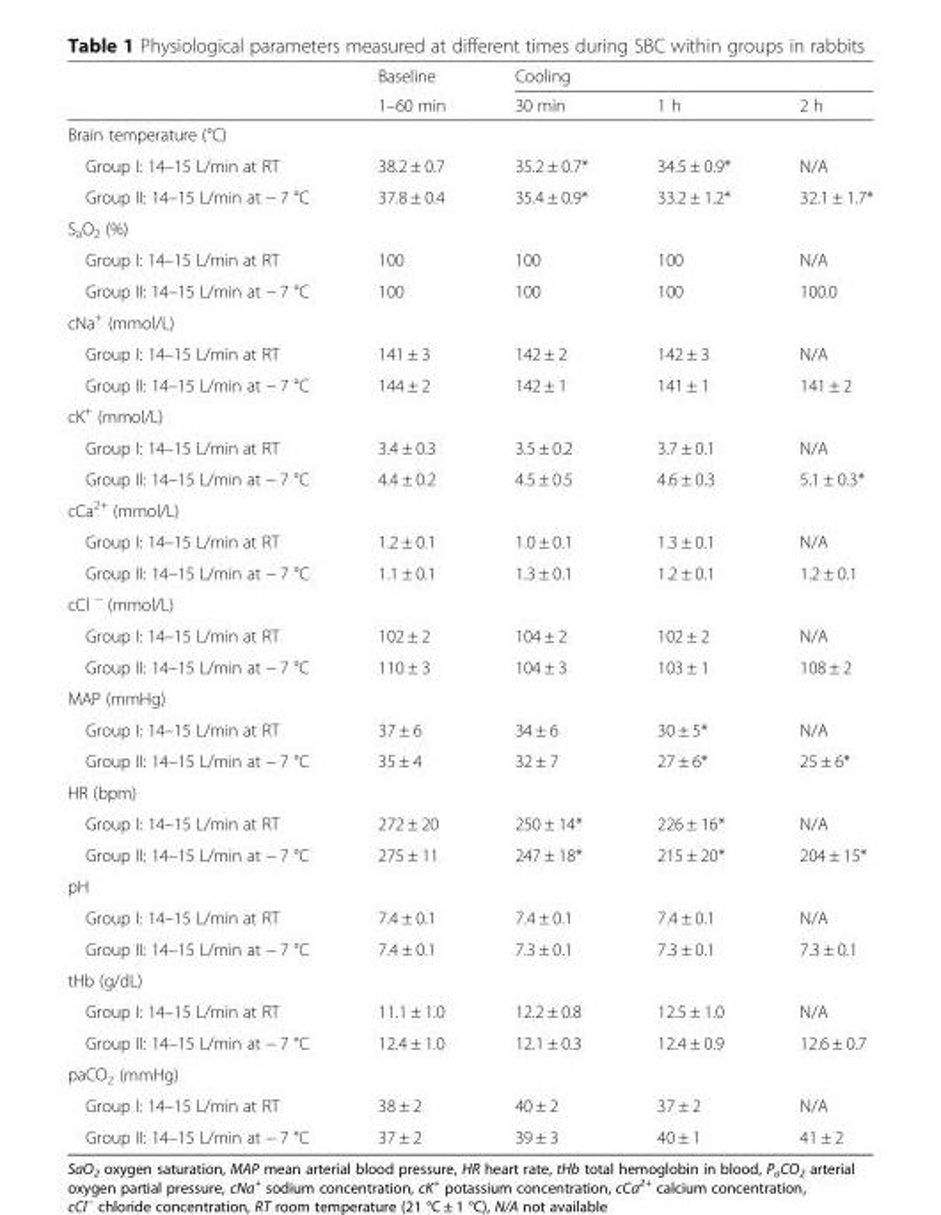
<table><thead><tr><td rowspan="2"></td><td rowspan="2">Baseline 1–60 min</td><td colspan="3">Cooling</td></tr><tr><td>30 min</td><td>1 h</td><td>2 h</td></tr></thead><tbody><tr><td colspan="5">Brain temperature (°C)</td></tr><tr><td>Group I: 14–15 L/min at RT</td><td>38.2 ± 0.7</td><td>35.2 ± 0.7*</td><td>34.5 ± 0.9*</td><td>N/A</td></tr><tr><td>Group II: 14–15 L/min at − 7 °C</td><td>37.8 ± 0.4</td><td>35.4 ± 0.9*</td><td>33.2 ± 1.2*</td><td>32.1 ± 1.7*</td></tr><tr><td colspan="5">S<sub>a</sub>O<sub>2</sub> (%)</td></tr><tr><td>Group I: 14–15 L/min at RT</td><td>100</td><td>100</td><td>100</td><td>N/A</td></tr><tr><td>Group II: 14–15 L/min at − 7 °C</td><td>100</td><td>100</td><td>100</td><td>100.0</td></tr><tr><td colspan="5">cNa<sup>+</sup> (mmol/L)</td></tr><tr><td>Group I: 14–15 L/min at RT</td><td>141 ± 3</td><td>142 ± 2</td><td>142 ± 3</td><td>N/A</td></tr><tr><td>Group II: 14–15 L/min at − 7 °C</td><td>144 ± 2</td><td>142 ± 1</td><td>141 ± 1</td><td>141 ± 2</td></tr><tr><td colspan="5">cK<sup>+</sup> (mmol/L)</td></tr><tr><td>Group I: 14–15 L/min at RT</td><td>3.4 ± 0.3</td><td>3.5 ± 0.2</td><td>3.7 ± 0.1</td><td>N/A</td></tr><tr><td>Group II: 14–15 L/min at − 7 °C</td><td>4.4 ± 0.2</td><td>4.5 ± 0.5</td><td>4.6 ± 0.3</td><td>5.1 ± 0.3*</td></tr><tr><td colspan="5">cCa<sup>2+</sup> (mmol/L)</td></tr><tr><td>Group I: 14–15 L/min at RT</td><td>1.2 ± 0.1</td><td>1.0 ± 0.1</td><td>1.3 ± 0.1</td><td>N/A</td></tr><tr><td>Group II: 14–15 L/min at − 7 °C</td><td>1.1 ± 0.1</td><td>1.3 ± 0.1</td><td>1.2 ± 0.1</td><td>1.2 ± 0.1</td></tr><tr><td colspan="5">cCl <sup>−</sup> (mmol/L)</td></tr><tr><td>Group I: 14–15 L/min at RT</td><td>102 ± 2</td><td>104 ± 2</td><td>102 ± 2</td><td>N/A</td></tr><tr><td>Group II: 14–15 L/min at − 7 °C</td><td>110 ± 3</td><td>104 ± 3</td><td>103 ± 1</td><td>108 ± 2</td></tr><tr><td colspan="5">MAP (mmHg)</td></tr><tr><td>Group I: 14–15 L/min at RT</td><td>37 ± 6</td><td>34 ± 6</td><td>30 ± 5*</td><td>N/A</td></tr><tr><td>Group II: 14–15 L/min at − 7 °C</td><td>35 ± 4</td><td>32 ± 7</td><td>27 ± 6*</td><td>25 ± 6*</td></tr><tr><td colspan="5">HR (bpm)</td></tr><tr><td>Group I: 14–15 L/min at RT</td><td>272 ± 20</td><td>250 ± 14*</td><td>226 ± 16*</td><td>N/A</td></tr><tr><td>Group II: 14–15 L/min at − 7 °C</td><td>275 ± 11</td><td>247 ± 18*</td><td>215 ± 20*</td><td>204 ± 15*</td></tr><tr><td colspan="5">pH</td></tr><tr><td>Group I: 14–15 L/min at RT</td><td>7.4 ± 0.1</td><td>7.4 ± 0.1</td><td>7.4 ± 0.1</td><td>N/A</td></tr><tr><td>Group II: 14–15 L/min at − 7 °C</td><td>7.4 ± 0.1</td><td>7.3 ± 0.1</td><td>7.3 ± 0.1</td><td>7.3 ± 0.1</td></tr><tr><td colspan="5">tHb (g/dL)</td></tr><tr><td>Group I: 14–15 L/min at RT</td><td>11.1 ± 1.0</td><td>12.2 ± 0.8</td><td>12.5 ± 1.0</td><td>N/A</td></tr><tr><td>Group II: 14–15 L/min at − 7 °C</td><td>12.4 ± 1.0</td><td>12.1 ± 0.3</td><td>12.4 ± 0.9</td><td>12.6 ± 0.7</td></tr><tr><td colspan="5">paCO<sub>2</sub> (mmHg)</td></tr><tr><td>Group I: 14–15 L/min at RT</td><td>38 ± 2</td><td>40 ± 2</td><td>37 ± 2</td><td>N/A</td></tr><tr><td>Group II: 14–15 L/min at − 7 °C</td><td>37 ± 2</td><td>39 ± 3</td><td>40 ± 1</td><td>41 ± 2</td></tr></tbody></table>